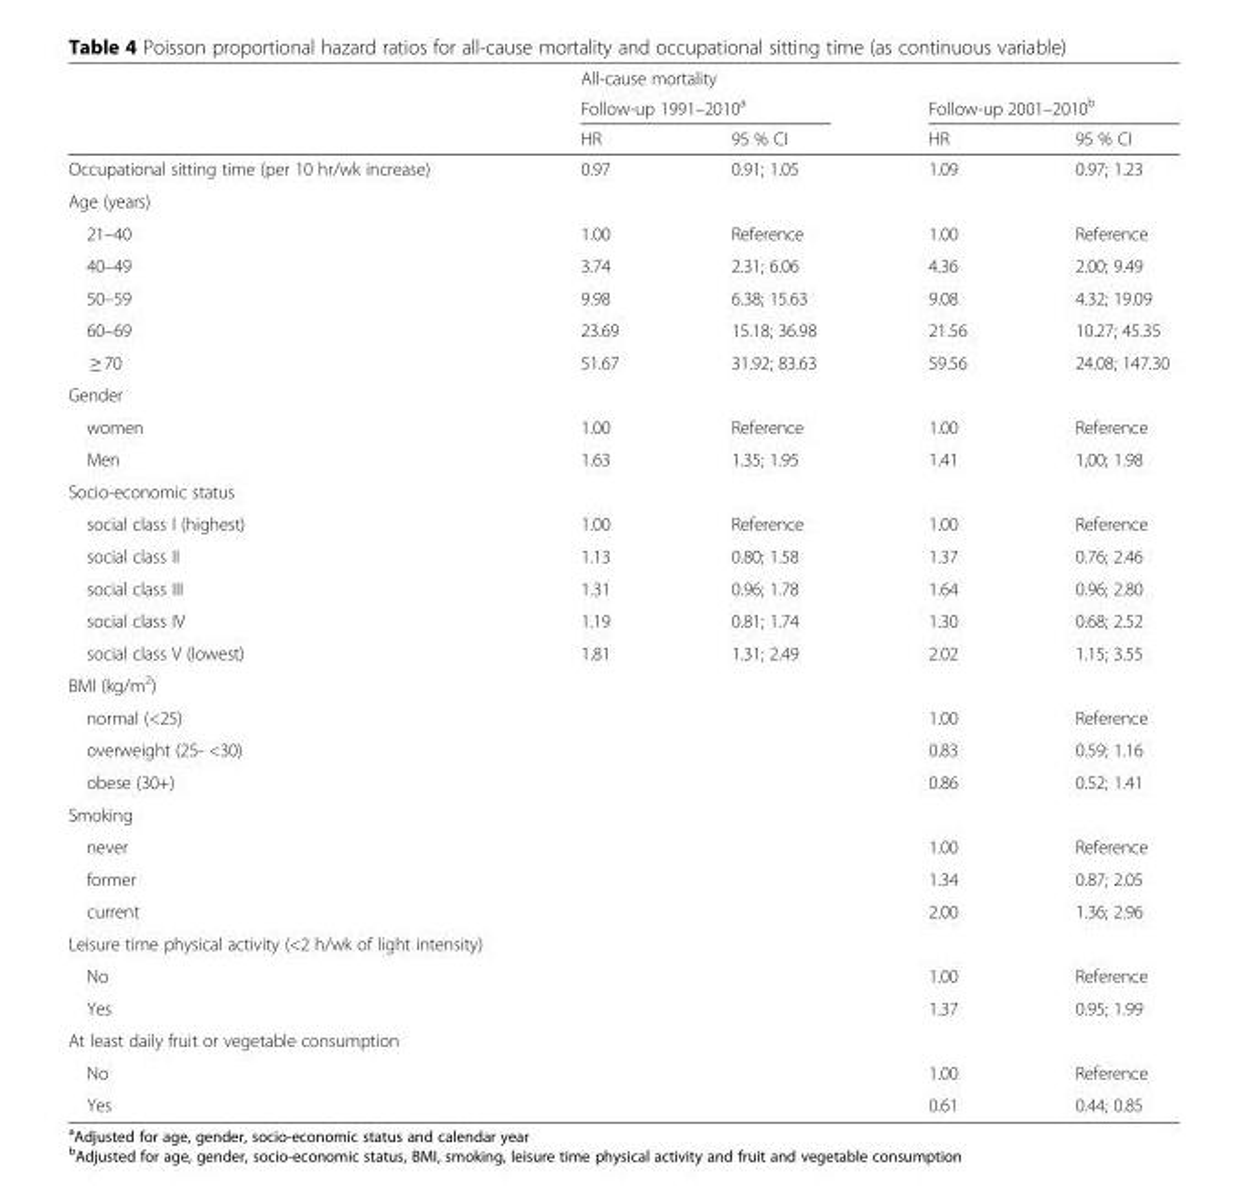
<table><thead><tr><td rowspan="3"></td><td colspan="4">All-cause mortality</td></tr><tr><td colspan="2">Follow-up 1991–2010<sup>a</sup></td><td colspan="2">Follow-up 2001–2010<sup>b</sup></td></tr><tr><td>HR</td><td>95 % CI</td><td>HR</td><td>95 % CI</td></tr></thead><tbody><tr><td>Occupational sitting time (per 10 hr/wk increase)</td><td>0.97</td><td>0.91; 1.05</td><td>1.09</td><td>0.97; 1.23</td></tr><tr><td colspan="5">Age (years)</td></tr><tr><td>21–40</td><td>1.00</td><td>Reference</td><td>1.00</td><td>Reference</td></tr><tr><td>40–49</td><td>3.74</td><td>2.31; 6.06</td><td>4.36</td><td>2.00; 9.49</td></tr><tr><td>50–59</td><td>9.98</td><td>6.38; 15.63</td><td>9.08</td><td>4.32; 19.09</td></tr><tr><td>60–69</td><td>23.69</td><td>15.18; 36.98</td><td>21.56</td><td>10.27; 45.35</td></tr><tr><td>≥ 70</td><td>51.67</td><td>31.92; 83.63</td><td>59.56</td><td>24.08; 147.30</td></tr><tr><td colspan="5">Gender</td></tr><tr><td>women</td><td>1.00</td><td>Reference</td><td>1.00</td><td>Reference</td></tr><tr><td>Men</td><td>1.63</td><td>1.35; 1.95</td><td>1.41</td><td>1,00; 1.98</td></tr><tr><td colspan="5">Socio-economic status</td></tr><tr><td>social class I (highest)</td><td>1.00</td><td>Reference</td><td>1.00</td><td>Reference</td></tr><tr><td>social class II</td><td>1.13</td><td>0.80; 1.58</td><td>1.37</td><td>0.76; 2.46</td></tr><tr><td>social class III</td><td>1.31</td><td>0.96; 1.78</td><td>1.64</td><td>0.96; 2.80</td></tr><tr><td>social class IV</td><td>1.19</td><td>0.81; 1.74</td><td>1.30</td><td>0.68; 2.52</td></tr><tr><td>social class V (lowest)</td><td>1.81</td><td>1.31; 2.49</td><td>2.02</td><td>1.15; 3.55</td></tr><tr><td colspan="5">BMI (kg/m<sup>2</sup>)</td></tr><tr><td>normal (&lt;25)</td><td></td><td></td><td>1.00</td><td>Reference</td></tr><tr><td>overweight (25- &lt;30)</td><td></td><td></td><td>0.83</td><td>0.59; 1.16</td></tr><tr><td>obese (30+)</td><td></td><td></td><td>0.86</td><td>0.52; 1.41</td></tr><tr><td colspan="5">Smoking</td></tr><tr><td>never</td><td></td><td></td><td>1.00</td><td>Reference</td></tr><tr><td>former</td><td></td><td></td><td>1.34</td><td>0.87; 2.05</td></tr><tr><td>current</td><td></td><td></td><td>2.00</td><td>1.36; 2.96</td></tr><tr><td colspan="5">Leisure time physical activity (&lt;2 h/wk of light intensity)</td></tr><tr><td>No</td><td></td><td></td><td>1.00</td><td>Reference</td></tr><tr><td>Yes</td><td></td><td></td><td>1.37</td><td>0.95; 1.99</td></tr><tr><td colspan="5">At least daily fruit or vegetable consumption</td></tr><tr><td>No</td><td></td><td></td><td>1.00</td><td>Reference</td></tr><tr><td>Yes</td><td></td><td></td><td>0.61</td><td>0.44; 0.85</td></tr></tbody></table>